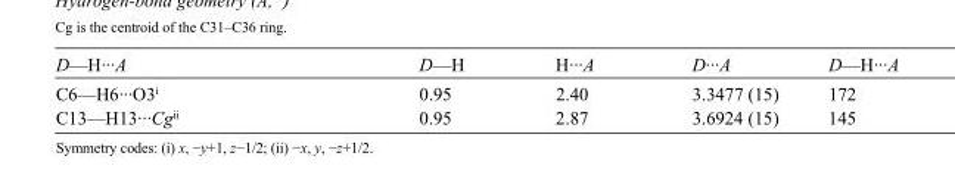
<table><tbody><tr><td>D—H···A</td><td>D—H</td><td>H···A</td><td>D···A</td><td>D—H···A</td></tr><tr><td>C6—H6···O3<sup>i</sup></td><td>0.95</td><td>2.40</td><td>3.3477 (15)</td><td>172</td></tr><tr><td>C13—H13···Cg<sup>ii</sup></td><td>0.95</td><td>2.87</td><td>3.6924 (15)</td><td>145</td></tr></tbody></table>